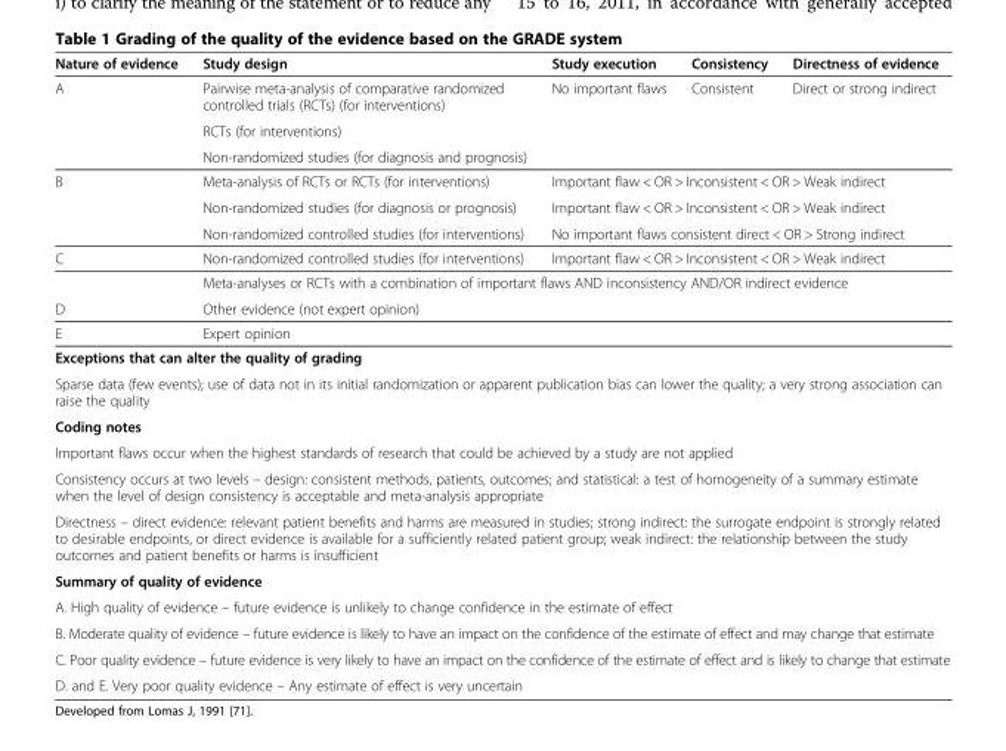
<table><thead><tr><td>Nature of evidence</td><td>Study design</td><td>Study execution</td><td>Consistency</td><td>Directness of evidence</td></tr></thead><tbody><tr><td rowspan="3">A</td><td>Pairwise meta-analysis of comparative randomized controlled trials (RCTs) (for interventions)</td><td rowspan="3">No important flaws</td><td rowspan="3">Consistent</td><td rowspan="3">Direct or strong indirect</td></tr><tr><td>RCTs (for interventions)</td></tr><tr><td>Non-randomized studies (for diagnosis and prognosis)</td></tr><tr><td rowspan="3">B</td><td>Meta-analysis of RCTs or RCTs (for interventions)</td><td colspan="3">Important flaw &lt; OR &gt; Inconsistent &lt; OR &gt; Weak indirect</td></tr><tr><td>Non-randomized studies (for diagnosis or prognosis)</td><td colspan="3">Important flaw &lt; OR &gt; Inconsistent &lt; OR &gt; Weak indirect</td></tr><tr><td>Non-randomized controlled studies (for interventions)</td><td colspan="3">No important flaws consistent direct &lt; OR &gt; Strong indirect</td></tr><tr><td rowspan="2">C</td><td>Non-randomized controlled studies (for interventions)</td><td colspan="3">Important flaw &lt; OR &gt; Inconsistent &lt; OR &gt; Weak indirect</td></tr><tr><td colspan="4">Meta-analyses or RCTs with a combination of important flaws AND inconsistency AND/OR indirect evidence</td></tr><tr><td>D</td><td colspan="4">Other evidence (not expert opinion)</td></tr><tr><td>E</td><td colspan="4">Expert opinion</td></tr><tr><td colspan="5">Exceptions that can alter the quality of grading</td></tr><tr><td colspan="5">Sparse data (few events); use of data not in its initial randomization or apparent publication bias can lower the quality; a very strong association can raise the quality</td></tr><tr><td colspan="5">Coding notes</td></tr><tr><td colspan="5">Important flaws occur when the highest standards of research that could be achieved by a study are not applied</td></tr><tr><td colspan="5">Consistency occurs at two levels – design: consistent methods, patients, outcomes; and statistical: a test of homogeneity of a summary estimate when the level of design consistency is acceptable and meta-analysis appropriate</td></tr><tr><td colspan="5">Directness – direct evidence: relevant patient benefits and harms are measured in studies; strong indirect: the surrogate endpoint is strongly related to desirable endpoints, or direct evidence is available for a sufficiently related patient group; weak indirect: the relationship between the study outcomes and patient benefits or harms is insufficient</td></tr><tr><td colspan="5">Summary of quality of evidence</td></tr><tr><td colspan="5">A. High quality of evidence – future evidence is unlikely to change confidence in the estimate of effect</td></tr><tr><td colspan="5">B. Moderate quality of evidence – future evidence is likely to have an impact on the confidence of the estimate of effect and may change that estimate</td></tr><tr><td colspan="5">C. Poor quality evidence – future evidence is very likely to have an impact on the confidence of the estimate of effect and is likely to change that estimate</td></tr><tr><td colspan="5">D. and E. Very poor quality evidence – Any estimate of effect is very uncertain</td></tr></tbody></table>